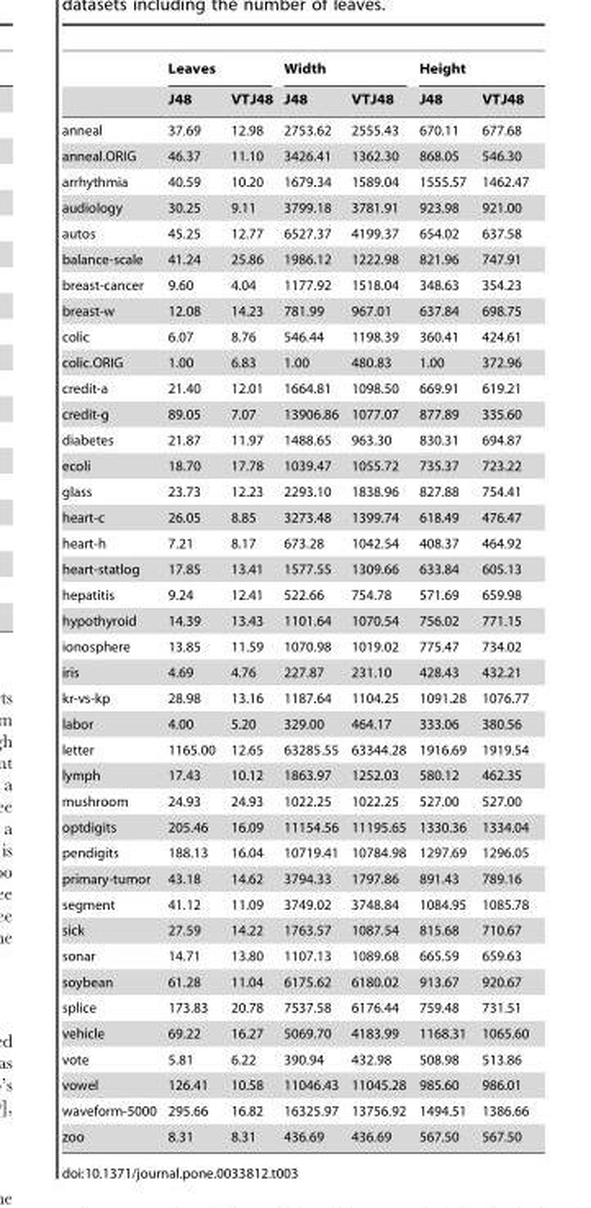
<table><thead><tr><td rowspan="2"></td><td colspan="2">Leaves</td><td colspan="2">Width</td><td colspan="2">Height</td></tr><tr><td>J48</td><td>VTJ48</td><td>J48</td><td>VTJ48</td><td>J48</td><td>VTJ48</td></tr></thead><tbody><tr><td>anneal</td><td>37.69</td><td>12.98</td><td>2753.62</td><td>2555.43</td><td>670.11</td><td>677.68</td></tr><tr><td>anneal.ORIG</td><td>46.37</td><td>11.10</td><td>3426.41</td><td>1362.30</td><td>868.05</td><td>546.30</td></tr><tr><td>arrhythmia</td><td>40.59</td><td>10.20</td><td>1679.34</td><td>1589.04</td><td>1555.57</td><td>1462.47</td></tr><tr><td>audiology</td><td>30.25</td><td>9.11</td><td>3799.18</td><td>3781.91</td><td>923.98</td><td>921.00</td></tr><tr><td>autos</td><td>45.25</td><td>12.77</td><td>6527.37</td><td>4199.37</td><td>654.02</td><td>637.58</td></tr><tr><td>balance-scale</td><td>41.24</td><td>25.86</td><td>1986.12</td><td>1222.98</td><td>821.96</td><td>747.91</td></tr><tr><td>breast-cancer</td><td>9.60</td><td>4.04</td><td>1177.92</td><td>1518.04</td><td>348.63</td><td>354.23</td></tr><tr><td>breast-w</td><td>12.08</td><td>14.23</td><td>781.99</td><td>967.01</td><td>637.84</td><td>698.75</td></tr><tr><td>colic</td><td>6.07</td><td>8.76</td><td>546.44</td><td>1198.39</td><td>360.41</td><td>424.61</td></tr><tr><td>colic.ORIG</td><td>1.00</td><td>6.83</td><td>1.00</td><td>480.83</td><td>1.00</td><td>372.96</td></tr><tr><td>credit-a</td><td>21.40</td><td>12.01</td><td>1664.81</td><td>1098.50</td><td>669.91</td><td>619.21</td></tr><tr><td>credit-g</td><td>89.05</td><td>7.07</td><td>13906.86</td><td>1077.07</td><td>877.89</td><td>335.60</td></tr><tr><td>diabetes</td><td>21.87</td><td>11.97</td><td>1488.65</td><td>963.30</td><td>830.31</td><td>694.87</td></tr><tr><td>ecoli</td><td>18.70</td><td>17.78</td><td>1039.47</td><td>1055.72</td><td>735.37</td><td>723.22</td></tr><tr><td>glass</td><td>23.73</td><td>12.23</td><td>2293.10</td><td>1838.96</td><td>827.88</td><td>754.41</td></tr><tr><td>heart-c</td><td>26.05</td><td>8.85</td><td>3273.48</td><td>1399.74</td><td>618.49</td><td>476.47</td></tr><tr><td>heart-h</td><td>7.21</td><td>8.17</td><td>673.28</td><td>1042.54</td><td>408.37</td><td>464.92</td></tr><tr><td>heart-statlog</td><td>17.85</td><td>13.41</td><td>1577.55</td><td>1309.66</td><td>633.84</td><td>605.13</td></tr><tr><td>hepatitis</td><td>9.24</td><td>12.41</td><td>522.66</td><td>754.78</td><td>571.69</td><td>659.98</td></tr><tr><td>hypothyroid</td><td>14.39</td><td>13.43</td><td>1101.64</td><td>1070.54</td><td>756.02</td><td>771.15</td></tr><tr><td>ionosphere</td><td>13.85</td><td>11.59</td><td>1070.98</td><td>1019.02</td><td>775.47</td><td>734.02</td></tr><tr><td>iris</td><td>4.69</td><td>4.76</td><td>227.87</td><td>231.10</td><td>428.43</td><td>432.21</td></tr><tr><td>kr-vs-kp</td><td>28.98</td><td>13.16</td><td>1187.64</td><td>1104.25</td><td>1091.28</td><td>1076.77</td></tr><tr><td>labor</td><td>4.00</td><td>5.20</td><td>329.00</td><td>464.17</td><td>333.06</td><td>380.56</td></tr><tr><td>letter</td><td>1165.00</td><td>12.65</td><td>63285.55</td><td>63344.28</td><td>1916.69</td><td>1919.54</td></tr><tr><td>lymph</td><td>17.43</td><td>10.12</td><td>1863.97</td><td>1252.03</td><td>580.12</td><td>462.35</td></tr><tr><td>mushroom</td><td>24.93</td><td>24.93</td><td>1022.25</td><td>1022.25</td><td>527.00</td><td>527.00</td></tr><tr><td>optdigits</td><td>205.46</td><td>16.09</td><td>11154.56</td><td>11195.65</td><td>1330.36</td><td>1334.04</td></tr><tr><td>pendigits</td><td>188.13</td><td>16.04</td><td>10719.41</td><td>10784.98</td><td>1297.69</td><td>1296.05</td></tr><tr><td>primary-tumor</td><td>43.18</td><td>14.62</td><td>3794.33</td><td>1797.86</td><td>891.43</td><td>789.16</td></tr><tr><td>segment</td><td>41.12</td><td>11.09</td><td>3749.02</td><td>3748.84</td><td>1084.95</td><td>1085.78</td></tr><tr><td>sick</td><td>27.59</td><td>14.22</td><td>1763.57</td><td>1087.54</td><td>815.68</td><td>710.67</td></tr><tr><td>sonar</td><td>14.71</td><td>13.80</td><td>1107.13</td><td>1089.68</td><td>665.59</td><td>659.63</td></tr><tr><td>soybean</td><td>61.28</td><td>11.04</td><td>6175.62</td><td>6180.02</td><td>913.67</td><td>920.67</td></tr><tr><td>splice</td><td>173.83</td><td>20.78</td><td>7537.58</td><td>6176.44</td><td>759.48</td><td>731.51</td></tr><tr><td>vehicle</td><td>69.22</td><td>16.27</td><td>5069.70</td><td>4183.99</td><td>1168.31</td><td>1065.60</td></tr><tr><td>vote</td><td>5.81</td><td>6.22</td><td>390.94</td><td>432.98</td><td>508.98</td><td>513.86</td></tr><tr><td>vowel</td><td>126.41</td><td>10.58</td><td>11046.43</td><td>11045.28</td><td>985.60</td><td>986.01</td></tr><tr><td>waveform-5000</td><td>295.66</td><td>16.82</td><td>16325.97</td><td>13756.92</td><td>1494.51</td><td>1386.66</td></tr><tr><td>zoo</td><td>8.31</td><td>8.31</td><td>436.69</td><td>436.69</td><td>567.50</td><td>567.50</td></tr></tbody></table>